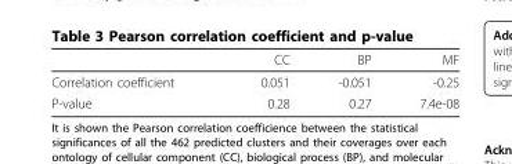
<table><thead><tr><td></td><td>CC</td><td>BP</td><td>MF</td></tr></thead><tbody><tr><td>Correlation coefficient</td><td>0.051</td><td>-0.051</td><td>-0.25</td></tr><tr><td>P-value</td><td>0.28</td><td>0.27</td><td>7.4e-08</td></tr></tbody></table>